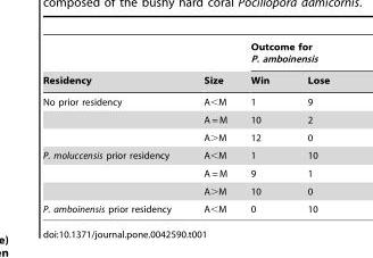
<table><thead><tr><td rowspan="2">Residency</td><td rowspan="2">Size</td><td colspan="2">Outcome for P. amboinensis</td></tr><tr><td>Win</td><td>Lose</td></tr></thead><tbody><tr><td rowspan="3">No prior residency</td><td>A&lt;M</td><td>1</td><td>9</td></tr><tr><td>A = M</td><td>10</td><td>2</td></tr><tr><td>A&gt;M</td><td>12</td><td>0</td></tr><tr><td rowspan="3">P. moluccensis prior residency</td><td>A&lt;M</td><td>1</td><td>10</td></tr><tr><td>A = M</td><td>9</td><td>1</td></tr><tr><td>A&gt;M</td><td>10</td><td>0</td></tr><tr><td>P. amboinensis prior residency</td><td>A&lt;M</td><td>0</td><td>10</td></tr></tbody></table>